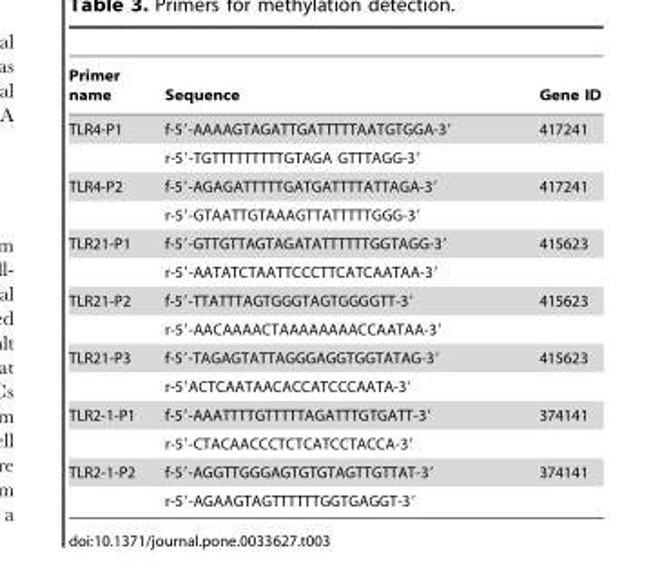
<table><thead><tr><td>Primer name</td><td>Sequence</td><td>Gene ID</td></tr></thead><tbody><tr><td rowspan="2">TLR4-P1</td><td>f-5′-AAAAGTAGATTGATTTTTAATGTGGA-3′</td><td>417241</td></tr><tr><td>r-5′-TGTTTTTTTTTGTAGA GTTTAGG-3′</td><td></td></tr><tr><td rowspan="2">TLR4-P2</td><td>f-5′-AGAGATTTTTGATGATTTTATTAGA-3′</td><td>417241</td></tr><tr><td>r-5′-GTAATTGTAAAGTTATTTTTGGG-3′</td><td></td></tr><tr><td rowspan="2">TLR21-P1</td><td>f-5′-GTTGTTAGTAGATATTTTTTGGTAGG-3′</td><td>415623</td></tr><tr><td>r-5′-AATATCTAATTCCCTTCATCAATAA-3′</td><td></td></tr><tr><td rowspan="2">TLR21-P2</td><td>f-5′-TTATTTAGTGGGTAGTGGGGTT-3′</td><td>415623</td></tr><tr><td>r-5′-AACAAAACTAAAAAAAACCAATAA-3′</td><td></td></tr><tr><td rowspan="2">TLR21-P3</td><td>f-5′-TAGAGTATTAGGGAGGTGGTATAG-3′</td><td>415623</td></tr><tr><td>r-5′ACTCAATAACACCATCCCAATA-3′</td><td></td></tr><tr><td rowspan="2">TLR2-1-P1</td><td>f-5′-AAATTTTGTTTTTAGATTTGTGATT-3′</td><td>374141</td></tr><tr><td>r-5′-CTACAACCCTCTCATCCTACCA-3′</td><td></td></tr><tr><td rowspan="2">TLR2-1-P2</td><td>f-5′-AGGTTGGGAGTGTGTAGTTGTTAT-3′</td><td>374141</td></tr><tr><td>r-5′-AGAAGTAGTTTTTTGGTGAGGT-3′</td><td></td></tr></tbody></table>